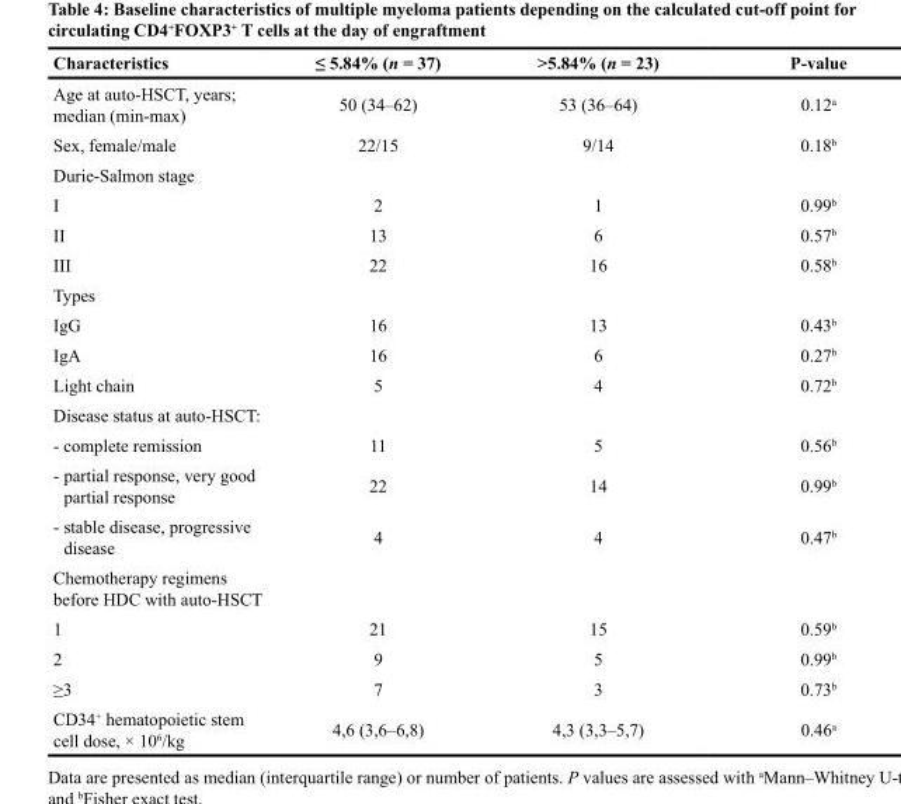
<table><thead><tr><td>Characteristics</td><td>≤ 5.84% (n = 37)</td><td>&gt;5.84% (n = 23)</td><td>P-value</td></tr></thead><tbody><tr><td>Age at auto-HSCT, years; median (min-max)</td><td>50 (34–62)</td><td>53 (36–64)</td><td>0.12<sup>a</sup></td></tr><tr><td>Sex, female/male</td><td>22/15</td><td>9/14</td><td>0.18<sup>b</sup></td></tr><tr><td colspan="4">Durie-Salmon stage</td></tr><tr><td>I</td><td>2</td><td>1</td><td>0.99<sup>b</sup></td></tr><tr><td>II</td><td>13</td><td>6</td><td>0.57<sup>b</sup></td></tr><tr><td>III</td><td>22</td><td>16</td><td>0.58<sup>b</sup></td></tr><tr><td colspan="4">Types</td></tr><tr><td>IgG</td><td>16</td><td>13</td><td>0.43<sup>b</sup></td></tr><tr><td>IgA</td><td>16</td><td>6</td><td>0.27<sup>b</sup></td></tr><tr><td>Light chain</td><td>5</td><td>4</td><td>0.72<sup>b</sup></td></tr><tr><td colspan="4">Disease status at auto-HSCT:</td></tr><tr><td>- complete remission</td><td>11</td><td>5</td><td>0.56<sup>b</sup></td></tr><tr><td>- partial response, very good partial response</td><td>22</td><td>14</td><td>0.99<sup>b</sup></td></tr><tr><td>- stable disease, progressive disease</td><td>4</td><td>4</td><td>0.47<sup>b</sup></td></tr><tr><td colspan="4">Chemotherapy regimens before HDC with auto-HSCT</td></tr><tr><td>1</td><td>21</td><td>15</td><td>0.59<sup>b</sup></td></tr><tr><td>2</td><td>9</td><td>5</td><td>0.99<sup>b</sup></td></tr><tr><td>≥3</td><td>7</td><td>3</td><td>0.73<sup>b</sup></td></tr><tr><td>CD34<sup>+</sup> hematopoietic stem cell dose, × 10<sup>6</sup>/kg</td><td>4,6 (3,6–6,8)</td><td>4,3 (3,3–5,7)</td><td>0.46<sup>a</sup></td></tr></tbody></table>